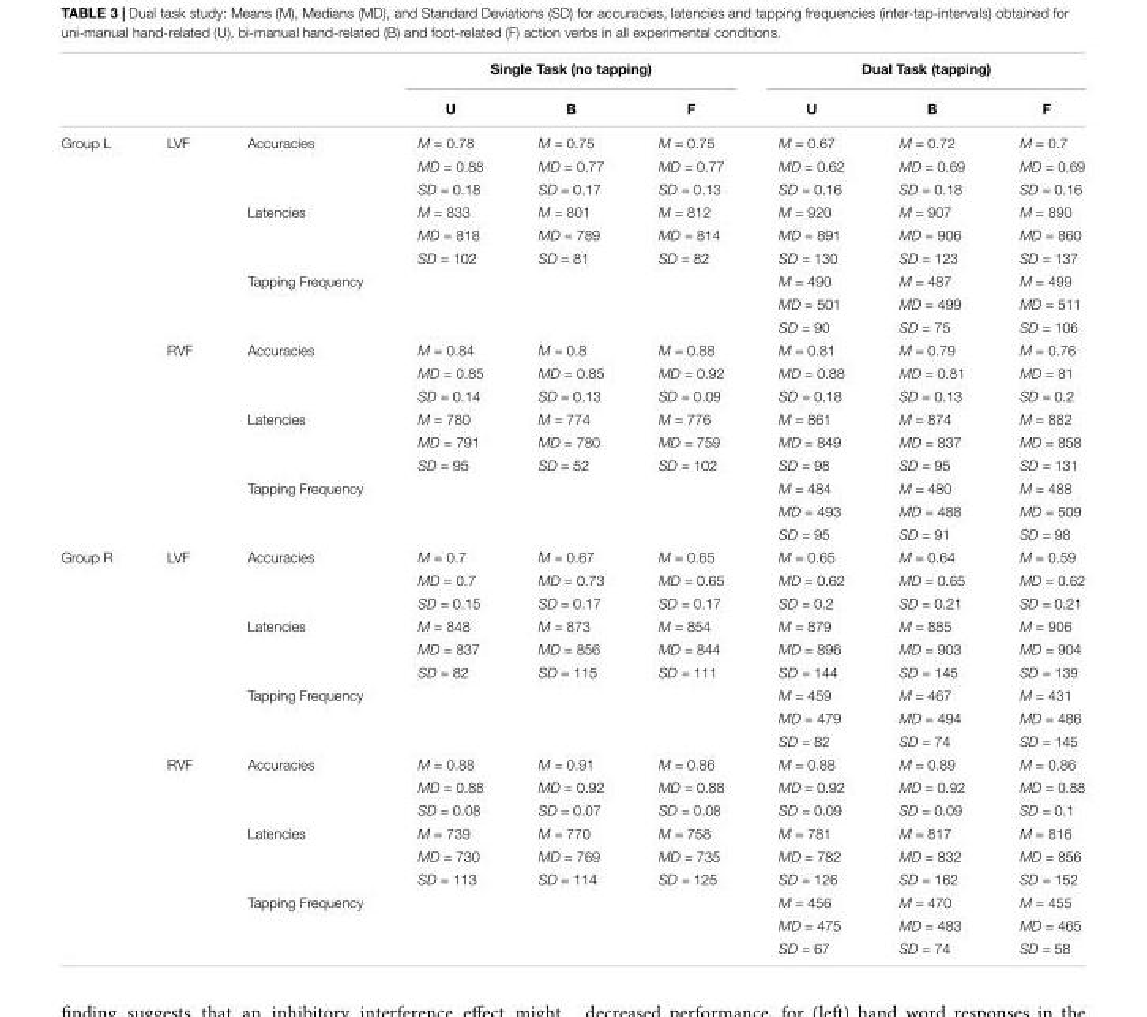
<table><thead><tr><td rowspan="2"></td><td rowspan="2"></td><td rowspan="2"></td><td colspan="3">Single Task (no tapping)</td><td colspan="3">Dual Task (tapping)</td></tr><tr><td>U</td><td>B</td><td>F</td><td>U</td><td>B</td><td>F</td></tr></thead><tbody><tr><td rowspan="18">Group L</td><td>LVF</td><td>Accuracies</td><td>M = 0.78</td><td>M = 0.75</td><td>M = 0.75</td><td>M = 0.67</td><td>M = 0.72</td><td>M = 0.7</td></tr><tr><td></td><td></td><td>MD = 0.88</td><td>MD = 0.77</td><td>MD = 0.77</td><td>MD = 0.62</td><td>MD = 0.69</td><td>MD = 0.69</td></tr><tr><td></td><td></td><td>SD = 0.18</td><td>SD = 0.17</td><td>SD = 0.13</td><td>SD = 0.16</td><td>SD = 0.18</td><td>SD = 0.16</td></tr><tr><td></td><td>Latencies</td><td>M = 833</td><td>M = 801</td><td>M = 812</td><td>M = 920</td><td>M = 907</td><td>M = 890</td></tr><tr><td></td><td></td><td>MD = 818</td><td>MD = 789</td><td>MD = 814</td><td>MD = 891</td><td>MD = 906</td><td>MD = 860</td></tr><tr><td></td><td></td><td>SD = 102</td><td>SD = 81</td><td>SD = 82</td><td>SD = 130</td><td>SD = 123</td><td>SD = 137</td></tr><tr><td></td><td>Tapping Frequency</td><td></td><td></td><td></td><td>M = 490</td><td>M = 487</td><td>M = 499</td></tr><tr><td></td><td></td><td></td><td></td><td></td><td>MD = 501</td><td>MD = 499</td><td>MD = 511</td></tr><tr><td></td><td></td><td></td><td></td><td></td><td>SD = 90</td><td>SD = 75</td><td>SD = 106</td></tr><tr><td>RVF</td><td>Accuracies</td><td>M = 0.84</td><td>M = 0.8</td><td>M = 0.88</td><td>M = 0.81</td><td>M = 0.79</td><td>M = 0.76</td></tr><tr><td></td><td></td><td>MD = 0.85</td><td>MD = 0.85</td><td>MD = 0.92</td><td>MD = 0.88</td><td>MD = 0.81</td><td>MD = 81</td></tr><tr><td></td><td></td><td>SD = 0.14</td><td>SD = 0.13</td><td>SD = 0.09</td><td>SD = 0.18</td><td>SD = 0.13</td><td>SD = 0.2</td></tr><tr><td></td><td>Latencies</td><td>M = 780</td><td>M = 774</td><td>M = 776</td><td>M = 861</td><td>M = 874</td><td>M = 882</td></tr><tr><td></td><td></td><td>MD = 791</td><td>MD = 780</td><td>MD = 759</td><td>MD = 849</td><td>MD = 837</td><td>MD = 858</td></tr><tr><td></td><td></td><td>SD = 95</td><td>SD = 52</td><td>SD = 102</td><td>SD = 98</td><td>SD = 95</td><td>SD = 131</td></tr><tr><td></td><td>Tapping Frequency</td><td></td><td></td><td></td><td>M = 484</td><td>M = 480</td><td>M = 488</td></tr><tr><td></td><td></td><td></td><td></td><td></td><td>MD = 493</td><td>MD = 488</td><td>MD = 509</td></tr><tr><td></td><td></td><td></td><td></td><td></td><td>SD = 95</td><td>SD = 91</td><td>SD = 98</td></tr><tr><td rowspan="18">Group R</td><td>LVF</td><td>Accuracies</td><td>M = 0.7</td><td>M = 0.67</td><td>M = 0.65</td><td>M = 0.65</td><td>M = 0.64</td><td>M = 0.59</td></tr><tr><td></td><td></td><td>MD = 0.7</td><td>MD = 0.73</td><td>MD = 0.65</td><td>MD = 0.62</td><td>MD = 0.65</td><td>MD = 0.62</td></tr><tr><td></td><td></td><td>SD = 0.15</td><td>SD = 0.17</td><td>SD = 0.17</td><td>SD = 0.2</td><td>SD = 0.21</td><td>SD = 0.21</td></tr><tr><td></td><td>Latencies</td><td>M = 848</td><td>M = 873</td><td>M = 854</td><td>M = 879</td><td>M = 885</td><td>M = 906</td></tr><tr><td></td><td></td><td>MD = 837</td><td>MD = 856</td><td>MD = 844</td><td>MD = 896</td><td>MD = 903</td><td>MD = 904</td></tr><tr><td></td><td></td><td>SD = 82</td><td>SD = 115</td><td>SD = 111</td><td>SD = 144</td><td>SD = 145</td><td>SD = 139</td></tr><tr><td></td><td>Tapping Frequency</td><td></td><td></td><td></td><td>M = 459</td><td>M = 467</td><td>M = 431</td></tr><tr><td></td><td></td><td></td><td></td><td></td><td>MD = 479</td><td>MD = 494</td><td>MD = 486</td></tr><tr><td></td><td></td><td></td><td></td><td></td><td>SD = 82</td><td>SD = 74</td><td>SD = 145</td></tr><tr><td>RVF</td><td>Accuracies</td><td>M = 0.88</td><td>M = 0.91</td><td>M = 0.86</td><td>M = 0.88</td><td>M = 0.89</td><td>M = 0.86</td></tr><tr><td></td><td></td><td>MD = 0.88</td><td>MD = 0.92</td><td>MD = 0.88</td><td>MD = 0.92</td><td>MD = 0.92</td><td>MD = 0.88</td></tr><tr><td></td><td></td><td>SD = 0.08</td><td>SD = 0.07</td><td>SD = 0.08</td><td>SD = 0.09</td><td>SD = 0.09</td><td>SD = 0.1</td></tr><tr><td></td><td>Latencies</td><td>M = 739</td><td>M = 770</td><td>M = 758</td><td>M = 781</td><td>M = 817</td><td>M = 816</td></tr><tr><td></td><td></td><td>MD = 730</td><td>MD = 769</td><td>MD = 735</td><td>MD = 782</td><td>MD = 832</td><td>MD = 856</td></tr><tr><td></td><td></td><td>SD = 113</td><td>SD = 114</td><td>SD = 125</td><td>SD = 126</td><td>SD = 162</td><td>SD = 152</td></tr><tr><td></td><td>Tapping Frequency</td><td></td><td></td><td></td><td>M = 456</td><td>M = 470</td><td>M = 455</td></tr><tr><td></td><td></td><td></td><td></td><td></td><td>MD = 475</td><td>MD = 483</td><td>MD = 465</td></tr><tr><td></td><td></td><td></td><td></td><td></td><td>SD = 67</td><td>SD = 74</td><td>SD = 58</td></tr></tbody></table>